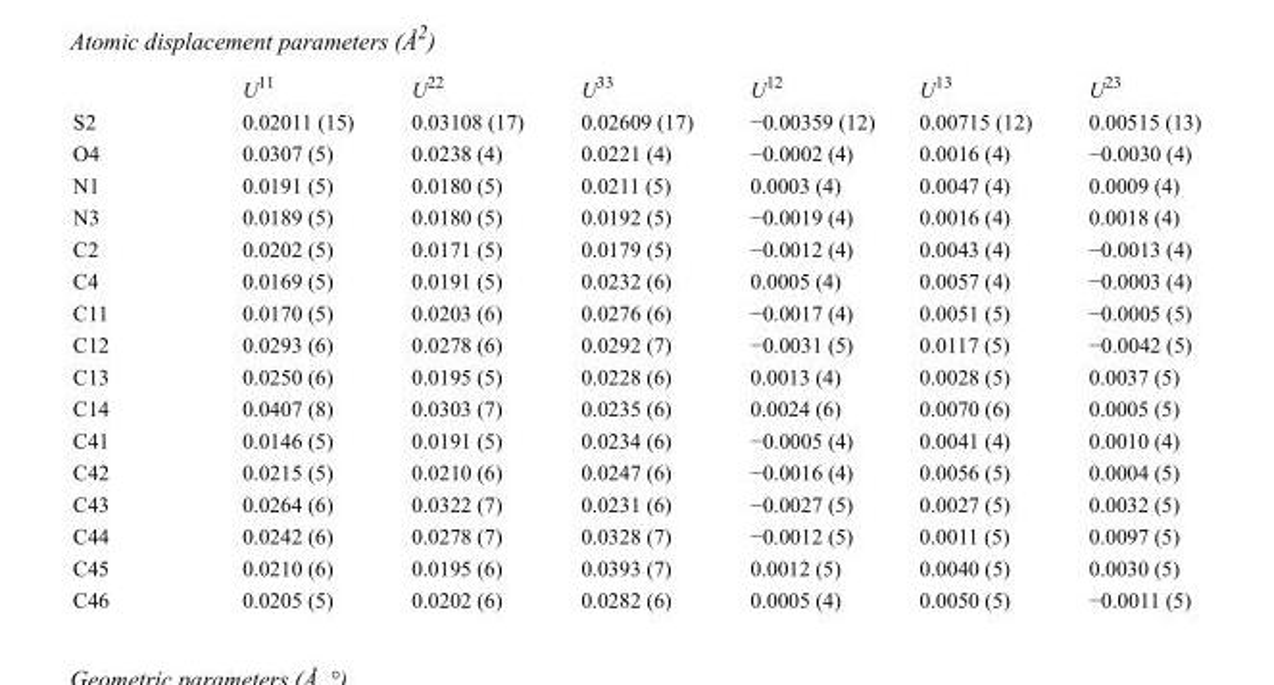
<table><thead><tr><td></td><td>U<sup>11</sup></td><td>U<sup>22</sup></td><td>U<sup>33</sup></td><td>U<sup>12</sup></td><td>U<sup>13</sup></td><td>U<sup>23</sup></td></tr></thead><tbody><tr><td>S2</td><td>0.02011 (15)</td><td>0.03108 (17)</td><td>0.02609 (17)</td><td>−0.00359 (12)</td><td>0.00715 (12)</td><td>0.00515 (13)</td></tr><tr><td>O4</td><td>0.0307 (5)</td><td>0.0238 (4)</td><td>0.0221 (4)</td><td>−0.0002 (4)</td><td>0.0016 (4)</td><td>−0.0030 (4)</td></tr><tr><td>N1</td><td>0.0191 (5)</td><td>0.0180 (5)</td><td>0.0211 (5)</td><td>0.0003 (4)</td><td>0.0047 (4)</td><td>0.0009 (4)</td></tr><tr><td>N3</td><td>0.0189 (5)</td><td>0.0180 (5)</td><td>0.0192 (5)</td><td>−0.0019 (4)</td><td>0.0016 (4)</td><td>0.0018 (4)</td></tr><tr><td>C2</td><td>0.0202 (5)</td><td>0.0171 (5)</td><td>0.0179 (5)</td><td>−0.0012 (4)</td><td>0.0043 (4)</td><td>−0.0013 (4)</td></tr><tr><td>C4</td><td>0.0169 (5)</td><td>0.0191 (5)</td><td>0.0232 (6)</td><td>0.0005 (4)</td><td>0.0057 (4)</td><td>−0.0003 (4)</td></tr><tr><td>C11</td><td>0.0170 (5)</td><td>0.0203 (6)</td><td>0.0276 (6)</td><td>−0.0017 (4)</td><td>0.0051 (5)</td><td>−0.0005 (5)</td></tr><tr><td>C12</td><td>0.0293 (6)</td><td>0.0278 (6)</td><td>0.0292 (7)</td><td>−0.0031 (5)</td><td>0.0117 (5)</td><td>−0.0042 (5)</td></tr><tr><td>C13</td><td>0.0250 (6)</td><td>0.0195 (5)</td><td>0.0228 (6)</td><td>0.0013 (4)</td><td>0.0028 (5)</td><td>0.0037 (5)</td></tr><tr><td>C14</td><td>0.0407 (8)</td><td>0.0303 (7)</td><td>0.0235 (6)</td><td>0.0024 (6)</td><td>0.0070 (6)</td><td>0.0005 (5)</td></tr><tr><td>C41</td><td>0.0146 (5)</td><td>0.0191 (5)</td><td>0.0234 (6)</td><td>−0.0005 (4)</td><td>0.0041 (4)</td><td>0.0010 (4)</td></tr><tr><td>C42</td><td>0.0215 (5)</td><td>0.0210 (6)</td><td>0.0247 (6)</td><td>−0.0016 (4)</td><td>0.0056 (5)</td><td>0.0004 (5)</td></tr><tr><td>C43</td><td>0.0264 (6)</td><td>0.0322 (7)</td><td>0.0231 (6)</td><td>−0.0027 (5)</td><td>0.0027 (5)</td><td>0.0032 (5)</td></tr><tr><td>C44</td><td>0.0242 (6)</td><td>0.0278 (7)</td><td>0.0328 (7)</td><td>−0.0012 (5)</td><td>0.0011 (5)</td><td>0.0097 (5)</td></tr><tr><td>C45</td><td>0.0210 (6)</td><td>0.0195 (6)</td><td>0.0393 (7)</td><td>0.0012 (5)</td><td>0.0040 (5)</td><td>0.0030 (5)</td></tr><tr><td>C46</td><td>0.0205 (5)</td><td>0.0202 (6)</td><td>0.0282 (6)</td><td>0.0005 (4)</td><td>0.0050 (5)</td><td>−0.0011 (5)</td></tr></tbody></table>